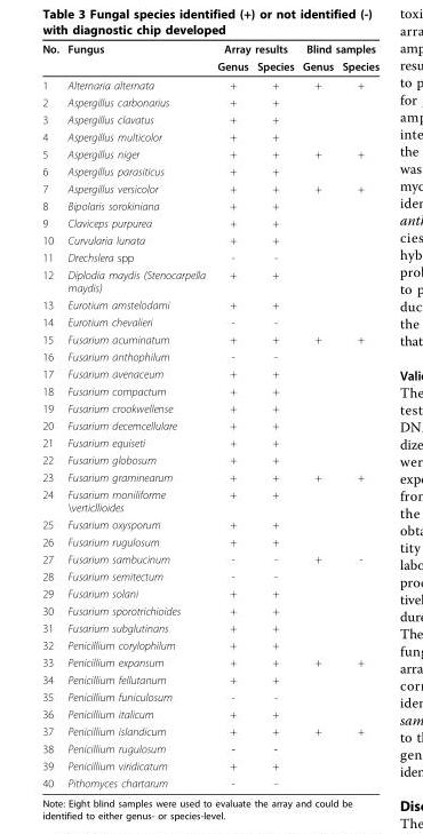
<table><thead><tr><td rowspan="2">No.</td><td rowspan="2">Fungus</td><td colspan="2">Array results</td><td colspan="2">Blind samples</td></tr><tr><td>Genus</td><td>Species</td><td>Genus</td><td>Species</td></tr></thead><tbody><tr><td>1</td><td>Alternaria alternata</td><td>+</td><td>+</td><td>+</td><td>+</td></tr><tr><td>2</td><td>Aspergillus carbonarius</td><td>+</td><td>+</td><td></td><td></td></tr><tr><td>3</td><td>Aspergillus clavatus</td><td>+</td><td>+</td><td></td><td></td></tr><tr><td>4</td><td>Aspergillus multicolor</td><td>+</td><td>+</td><td></td><td></td></tr><tr><td>5</td><td>Aspergillus niger</td><td>+</td><td>+</td><td>+</td><td>+</td></tr><tr><td>6</td><td>Aspergillus parasiticus</td><td>+</td><td>+</td><td></td><td></td></tr><tr><td>7</td><td>Aspergillus versicolor</td><td>+</td><td>+</td><td>+</td><td>+</td></tr><tr><td>8</td><td>Bipolaris sorokiniana</td><td>+</td><td>+</td><td></td><td></td></tr><tr><td>9</td><td>Claviceps purpurea</td><td>+</td><td>+</td><td></td><td></td></tr><tr><td>10</td><td>Curvularia lunata</td><td>+</td><td>+</td><td></td><td></td></tr><tr><td>11</td><td>Drechslera spp</td><td>-</td><td>-</td><td></td><td></td></tr><tr><td>12</td><td>Diplodia maydis (Stenocarpella maydis)</td><td>+</td><td>+</td><td></td><td></td></tr><tr><td>13</td><td>Eurotium amstelodami</td><td>+</td><td>+</td><td></td><td></td></tr><tr><td>14</td><td>Eurotium chevalieri</td><td>-</td><td>-</td><td></td><td></td></tr><tr><td>15</td><td>Fusarium acuminatum</td><td>+</td><td>+</td><td>+</td><td>+</td></tr><tr><td>16</td><td>Fusarium anthophilum</td><td>-</td><td>-</td><td></td><td></td></tr><tr><td>17</td><td>Fusarium avenaceum</td><td>+</td><td>+</td><td></td><td></td></tr><tr><td>18</td><td>Fusarium compactum</td><td>+</td><td>+</td><td></td><td></td></tr><tr><td>19</td><td>Fusarium crookwellense</td><td>+</td><td>+</td><td></td><td></td></tr><tr><td>20</td><td>Fusarium decemcellulare</td><td>+</td><td>+</td><td></td><td></td></tr><tr><td>21</td><td>Fusarium equiseti</td><td>+</td><td>+</td><td></td><td></td></tr><tr><td>22</td><td>Fusarium globosum</td><td>+</td><td>+</td><td></td><td></td></tr><tr><td>23</td><td>Fusarium graminearum</td><td>+</td><td>+</td><td>+</td><td>+</td></tr><tr><td>24</td><td>Fusarium moniliforme \verticllioides</td><td>+</td><td>+</td><td></td><td></td></tr><tr><td>25</td><td>Fusarium oxysporum</td><td>+</td><td>+</td><td></td><td></td></tr><tr><td>26</td><td>Fusarium rugulosum</td><td>+</td><td>+</td><td></td><td></td></tr><tr><td>27</td><td>Fusarium sambucinum</td><td>-</td><td>-</td><td>+</td><td>-</td></tr><tr><td>28</td><td>Fusarium semitectum</td><td>-</td><td>-</td><td></td><td></td></tr><tr><td>29</td><td>Fusarium solani</td><td>+</td><td>+</td><td></td><td></td></tr><tr><td>30</td><td>Fusarium sporotrichioides</td><td>+</td><td>+</td><td></td><td></td></tr><tr><td>31</td><td>Fusarium subglutinans</td><td>+</td><td>+</td><td></td><td></td></tr><tr><td>32</td><td>Penicillium corylophilum</td><td>+</td><td>+</td><td></td><td></td></tr><tr><td>33</td><td>Penicillium expansum</td><td>+</td><td>+</td><td>+</td><td>+</td></tr><tr><td>34</td><td>Penicillium fellutanum</td><td>+</td><td>+</td><td></td><td></td></tr><tr><td>35</td><td>Penicillium funiculosum</td><td>-</td><td>-</td><td></td><td></td></tr><tr><td>36</td><td>Penicillium italicum</td><td>+</td><td>+</td><td></td><td></td></tr><tr><td>37</td><td>Penicillium islandicum</td><td>+</td><td>+</td><td>+</td><td>+</td></tr><tr><td>38</td><td>Penicillium rugulosum</td><td>-</td><td>-</td><td></td><td></td></tr><tr><td>39</td><td>Penicillium viridicatum</td><td>+</td><td>+</td><td></td><td></td></tr><tr><td>40</td><td>Pithomyces chartarum</td><td>-</td><td>-</td><td></td><td></td></tr></tbody></table>